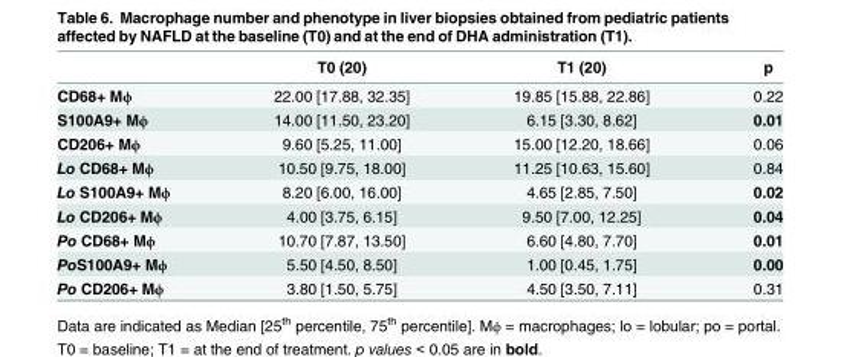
<table><thead><tr><td></td><td>T0 (20)</td><td>T1 (20)</td><td>p</td></tr></thead><tbody><tr><td>CD68+ Mϕ</td><td>22.00 [17.88, 32.35]</td><td>19.85 [15.88, 22.86]</td><td>0.22</td></tr><tr><td>S100A9+ Mϕ</td><td>14.00 [11.50, 23.20]</td><td>6.15 [3.30, 8.62]</td><td>0.01</td></tr><tr><td>CD206+ Mϕ</td><td>9.60 [5.25, 11.00]</td><td>15.00 [12.20, 18.66]</td><td>0.06</td></tr><tr><td>Lo CD68+ Mϕ</td><td>10.50 [9.75, 18.00]</td><td>11.25 [10.63, 15.60]</td><td>0.84</td></tr><tr><td>Lo S100A9+ Mϕ</td><td>8.20 [6.00, 16.00]</td><td>4.65 [2.85, 7.50]</td><td>0.02</td></tr><tr><td>Lo CD206+ Mϕ</td><td>4.00 [3.75, 6.15]</td><td>9.50 [7.00, 12.25]</td><td>0.04</td></tr><tr><td>Po CD68+ Mϕ</td><td>10.70 [7.87, 13.50]</td><td>6.60 [4.80, 7.70]</td><td>0.01</td></tr><tr><td>PoS100A9+ Mϕ</td><td>5.50 [4.50, 8.50]</td><td>1.00 [0.45, 1.75]</td><td>0.00</td></tr><tr><td>Po CD206+ Mϕ</td><td>3.80 [1.50, 5.75]</td><td>4.50 [3.50, 7.11]</td><td>0.31</td></tr></tbody></table>